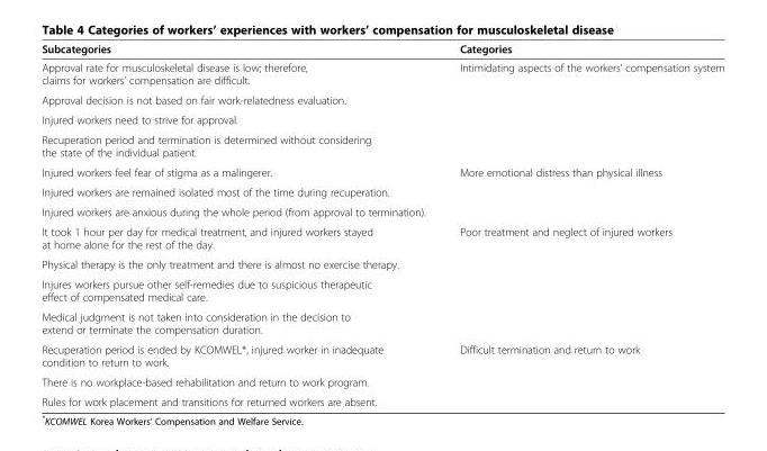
<table><thead><tr><td>Subcategories</td><td>Categories</td></tr></thead><tbody><tr><td>Approval rate for musculoskeletal disease is low; therefore, claims for workers’ compensation are difficult.</td><td rowspan="4">Intimidating aspects of the workers’ compensation system</td></tr><tr><td>Approval decision is not based on fair work-relatedness evaluation.</td></tr><tr><td>Injured workers need to strive for approval.</td></tr><tr><td>Recuperation period and termination is determined without considering the state of the individual patient.</td></tr><tr><td>Injured workers feel fear of stigma as a malingerer.</td><td rowspan="3">More emotional distress than physical illness</td></tr><tr><td>Injured workers are remained isolated most of the time during recuperation.</td></tr><tr><td>Injured workers are anxious during the whole period (from approval to termination).</td></tr><tr><td>It took 1 hour per day for medical treatment, and injured workers stayed at home alone for the rest of the day.</td><td rowspan="4">Poor treatment and neglect of injured workers</td></tr><tr><td>Physical therapy is the only treatment and there is almost no exercise therapy.</td></tr><tr><td>Injures workers pursue other self-remedies due to suspicious therapeutic effect of compensated medical care.</td></tr><tr><td>Medical judgment is not taken into consideration in the decision to extend or terminate the compensation duration.</td></tr><tr><td>Recuperation period is ended by KCOMWEL*, injured worker in inadequate condition to return to work.</td><td rowspan="3">Difficult termination and return to work</td></tr><tr><td>There is no workplace-based rehabilitation and return to work program.</td></tr><tr><td>Rules for work placement and transitions for returned workers are absent.</td></tr></tbody></table>